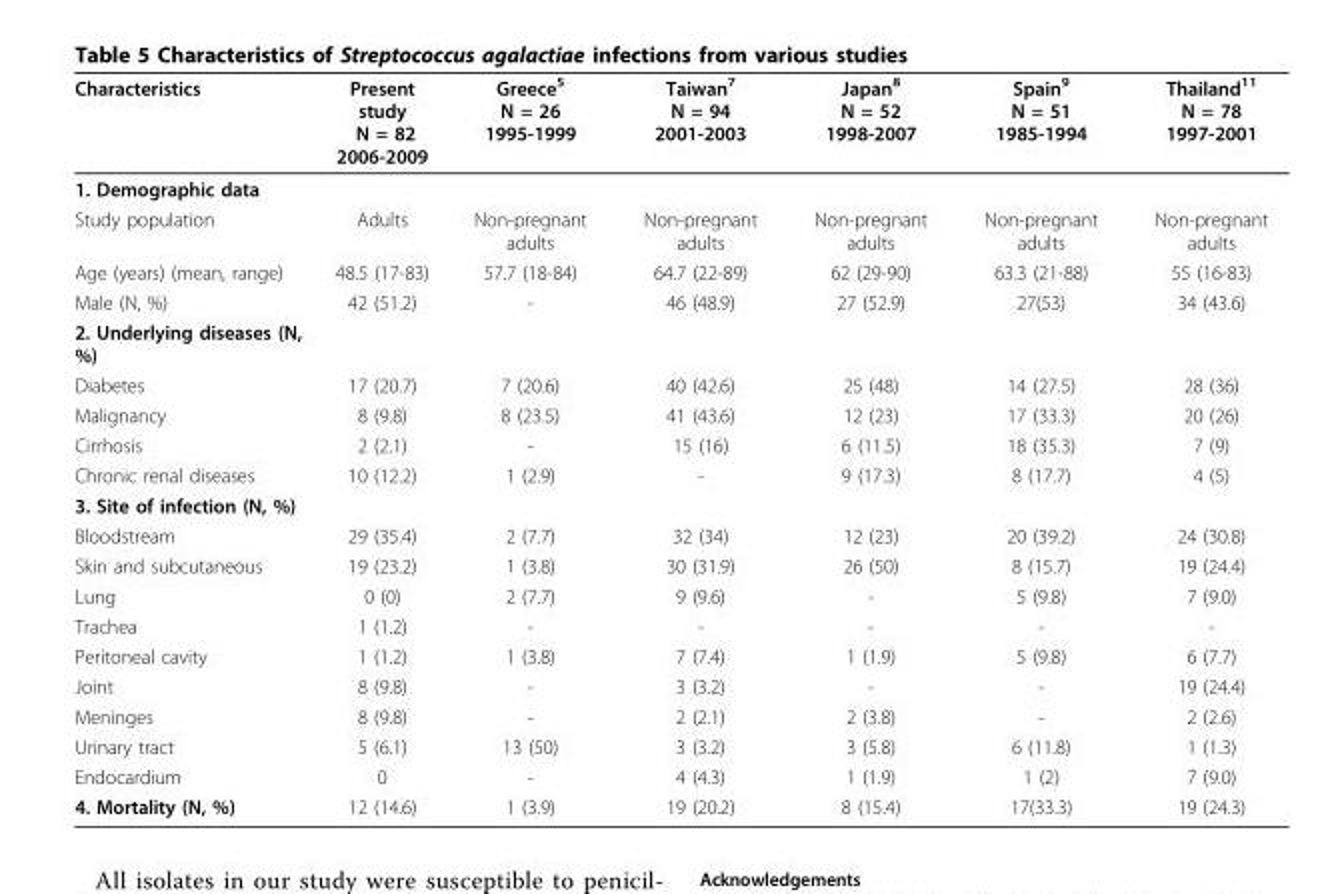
<table><thead><tr><td>Characteristics</td><td>Present study N = 82 2006-2009</td><td>Greece<sup>5</sup> N = 26 1995-1999</td><td>Taiwan<sup>7</sup> N = 94 2001-2003</td><td>Japan<sup>8</sup> N = 52 1998-2007</td><td>Spain<sup>9</sup> N = 51 1985-1994</td><td>Thailand<sup>11</sup> N = 78 1997-2001</td></tr></thead><tbody><tr><td colspan="7">1. Demographic data</td></tr><tr><td>Study population</td><td>Adults</td><td>Non-pregnant adults</td><td>Non-pregnant adults</td><td>Non-pregnant adults</td><td>Non-pregnant adults</td><td>Non-pregnant adults</td></tr><tr><td>Age (years) (mean, range)</td><td>48.5 (17-83)</td><td>57.7 (18-84)</td><td>64.7 (22-89)</td><td>62 (29-90)</td><td>63.3 (21-88)</td><td>55 (16-83)</td></tr><tr><td>Male (N, %)</td><td>42 (51.2)</td><td>-</td><td>46 (48.9)</td><td>27 (52.9)</td><td>27(53)</td><td>34 (43.6)</td></tr><tr><td colspan="7">2. Underlying diseases (N, %)</td></tr><tr><td>Diabetes</td><td>17 (20.7)</td><td>7 (20.6)</td><td>40 (42.6)</td><td>25 (48)</td><td>14 (27.5)</td><td>28 (36)</td></tr><tr><td>Malignancy</td><td>8 (9.8)</td><td>8 (23.5)</td><td>41 (43.6)</td><td>12 (23)</td><td>17 (33.3)</td><td>20 (26)</td></tr><tr><td>Cirrhosis</td><td>2 (2.1)</td><td>-</td><td>15 (16)</td><td>6 (11.5)</td><td>18 (35.3)</td><td>7 (9)</td></tr><tr><td>Chronic renal diseases</td><td>10 (12.2)</td><td>1 (2.9)</td><td>-</td><td>9 (17.3)</td><td>8 (17.7)</td><td>4 (5)</td></tr><tr><td colspan="7">3. Site of infection (N, %)</td></tr><tr><td>Bloodstream</td><td>29 (35.4)</td><td>2 (7.7)</td><td>32 (34)</td><td>12 (23)</td><td>20 (39.2)</td><td>24 (30.8)</td></tr><tr><td>Skin and subcutaneous</td><td>19 (23.2)</td><td>1 (3.8)</td><td>30 (31.9)</td><td>26 (50)</td><td>8 (15.7)</td><td>19 (24.4)</td></tr><tr><td>Lung</td><td>0 (0)</td><td>2 (7.7)</td><td>9 (9.6)</td><td>-</td><td>5 (9.8)</td><td>7 (9.0)</td></tr><tr><td>Trachea</td><td>1 (1.2)</td><td>-</td><td>-</td><td>-</td><td>-</td><td>-</td></tr><tr><td>Peritoneal cavity</td><td>1 (1.2)</td><td>1 (3.8)</td><td>7 (7.4)</td><td>1 (1.9)</td><td>5 (9.8)</td><td>6 (7.7)</td></tr><tr><td>Joint</td><td>8 (9.8)</td><td>-</td><td>3 (3.2)</td><td>-</td><td>-</td><td>19 (24.4)</td></tr><tr><td>Meninges</td><td>8 (9.8)</td><td>-</td><td>2 (2.1)</td><td>2 (3.8)</td><td>-</td><td>2 (2.6)</td></tr><tr><td>Urinary tract</td><td>5 (6.1)</td><td>13 (50)</td><td>3 (3.2)</td><td>3 (5.8)</td><td>6 (11.8)</td><td>1 (1.3)</td></tr><tr><td>Endocardium</td><td>0</td><td>-</td><td>4 (4.3)</td><td>1 (1.9)</td><td>1 (2)</td><td>7 (9.0)</td></tr><tr><td>4. Mortality (N, %)</td><td>12 (14.6)</td><td>1 (3.9)</td><td>19 (20.2)</td><td>8 (15.4)</td><td>17(33.3)</td><td>19 (24.3)</td></tr></tbody></table>